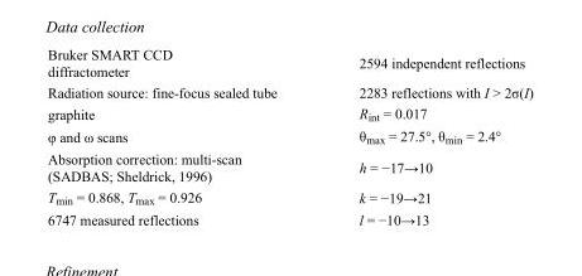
<table><tbody><tr><td>Bruker SMART CCD diffractometer</td><td>2594 independent reflections</td></tr><tr><td>Radiation source: fine-focus sealed tube</td><td>2283 reflections with I &gt; 2σ(I)</td></tr><tr><td>graphite</td><td>R<sub>int</sub> = 0.017</td></tr><tr><td>φ and ω scans</td><td>θ<sub>max</sub> = 27.5°, θ<sub>min</sub> = 2.4°</td></tr><tr><td>Absorption correction: multi-scan (SADBAS; Sheldrick, 1996)</td><td>h = −17→10</td></tr><tr><td>T<sub>min</sub> = 0.868, T<sub>max</sub> = 0.926</td><td>k = −19→21</td></tr><tr><td>6747 measured reflections</td><td>l = −10→13</td></tr></tbody></table>